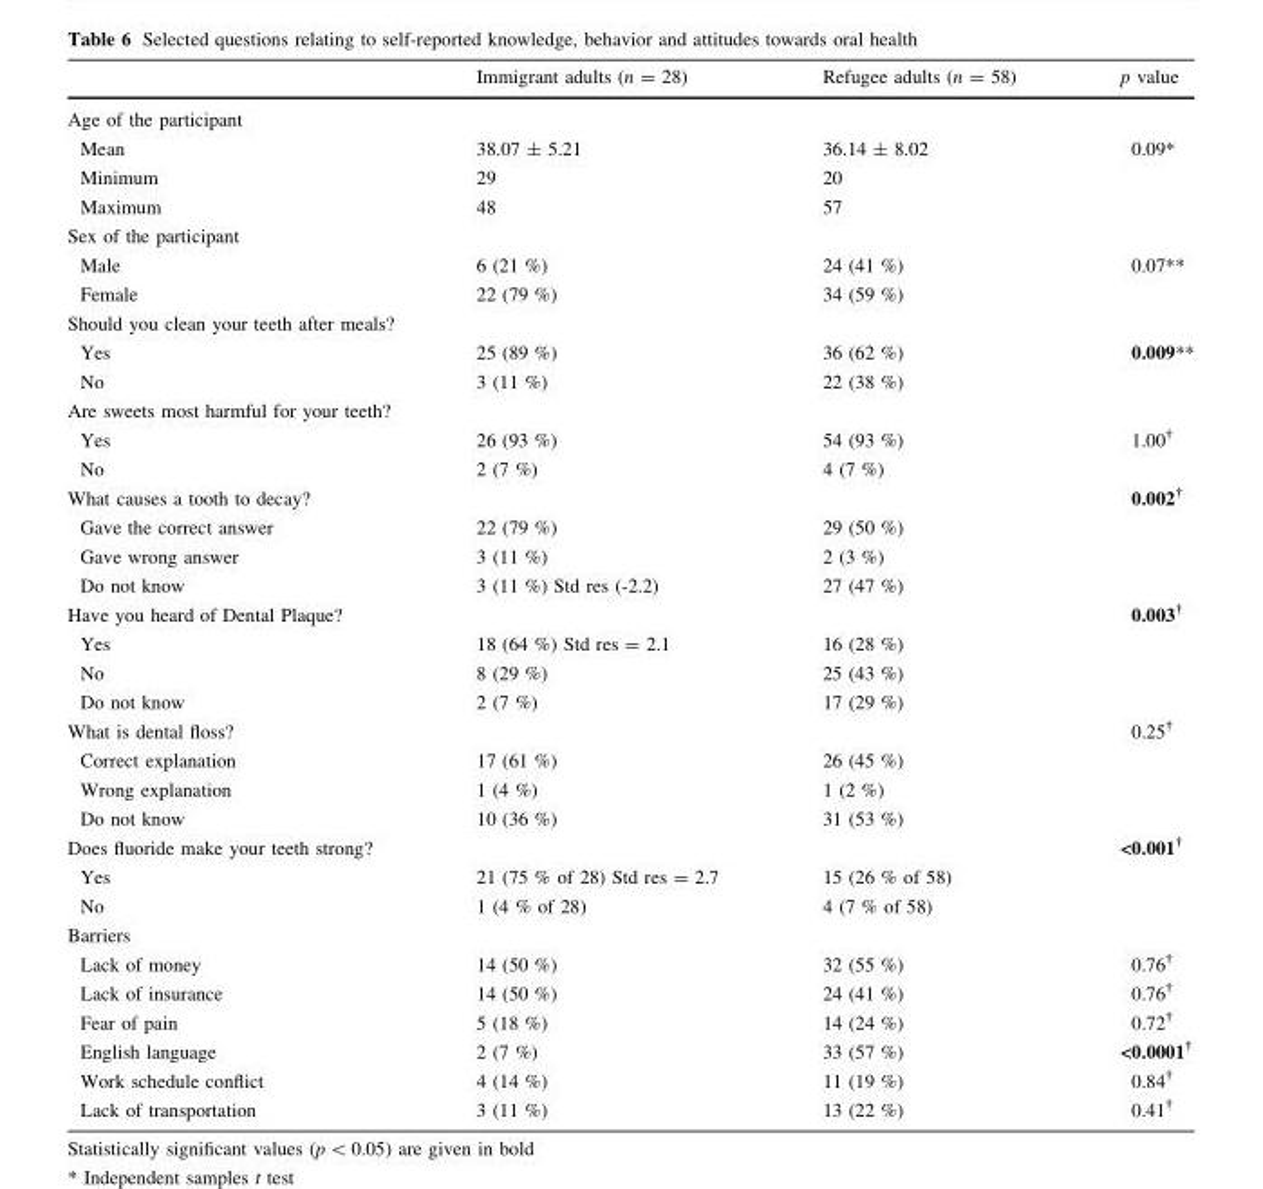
<table><thead><tr><td></td><td>Immigrant adults (n = 28)</td><td>Refugee adults (n = 58)</td><td>p value</td></tr></thead><tbody><tr><td colspan="4">Age of the participant</td></tr><tr><td>Mean</td><td>38.07 ± 5.21</td><td>36.14 ± 8.02</td><td>0.09*</td></tr><tr><td>Minimum</td><td>29</td><td>20</td><td></td></tr><tr><td>Maximum</td><td>48</td><td>57</td><td></td></tr><tr><td colspan="4">Sex of the participant</td></tr><tr><td>Male</td><td>6 (21 %)</td><td>24 (41 %)</td><td>0.07**</td></tr><tr><td>Female</td><td>22 (79 %)</td><td>34 (59 %)</td><td></td></tr><tr><td colspan="4">Should you clean your teeth after meals?</td></tr><tr><td>Yes</td><td>25 (89 %)</td><td>36 (62 %)</td><td>0.009**</td></tr><tr><td>No</td><td>3 (11 %)</td><td>22 (38 %)</td><td></td></tr><tr><td colspan="4">Are sweets most harmful for your teeth?</td></tr><tr><td>Yes</td><td>26 (93 %)</td><td>54 (93 %)</td><td>1.00<sup>†</sup></td></tr><tr><td>No</td><td>2 (7 %)</td><td>4 (7 %)</td><td></td></tr><tr><td>What causes a tooth to decay?</td><td></td><td></td><td>0.002<sup>†</sup></td></tr><tr><td>Gave the correct answer</td><td>22 (79 %)</td><td>29 (50 %)</td><td></td></tr><tr><td>Gave wrong answer</td><td>3 (11 %)</td><td>2 (3 %)</td><td></td></tr><tr><td>Do not know</td><td>3 (11 %) Std res (-2.2)</td><td>27 (47 %)</td><td></td></tr><tr><td>Have you heard of Dental Plaque?</td><td></td><td></td><td>0.003<sup>†</sup></td></tr><tr><td>Yes</td><td>18 (64 %) Std res = 2.1</td><td>16 (28 %)</td><td></td></tr><tr><td>No</td><td>8 (29 %)</td><td>25 (43 %)</td><td></td></tr><tr><td>Do not know</td><td>2 (7 %)</td><td>17 (29 %)</td><td></td></tr><tr><td>What is dental floss?</td><td></td><td></td><td>0.25<sup>†</sup></td></tr><tr><td>Correct explanation</td><td>17 (61 %)</td><td>26 (45 %)</td><td></td></tr><tr><td>Wrong explanation</td><td>1 (4 %)</td><td>1 (2 %)</td><td></td></tr><tr><td>Do not know</td><td>10 (36 %)</td><td>31 (53 %)</td><td></td></tr><tr><td>Does fluoride make your teeth strong?</td><td></td><td></td><td>&lt;0.001<sup>†</sup></td></tr><tr><td>Yes</td><td>21 (75 % of 28) Std res = 2.7</td><td>15 (26 % of 58)</td><td></td></tr><tr><td>No</td><td>1 (4 % of 28)</td><td>4 (7 % of 58)</td><td></td></tr><tr><td colspan="4">Barriers</td></tr><tr><td>Lack of money</td><td>14 (50 %)</td><td>32 (55 %)</td><td>0.76<sup>†</sup></td></tr><tr><td>Lack of insurance</td><td>14 (50 %)</td><td>24 (41 %)</td><td>0.76<sup>†</sup></td></tr><tr><td>Fear of pain</td><td>5 (18 %)</td><td>14 (24 %)</td><td>0.72<sup>†</sup></td></tr><tr><td>English language</td><td>2 (7 %)</td><td>33 (57 %)</td><td>&lt;0.0001<sup>†</sup></td></tr><tr><td>Work schedule conflict</td><td>4 (14 %)</td><td>11 (19 %)</td><td>0.84<sup>†</sup></td></tr><tr><td>Lack of transportation</td><td>3 (11 %)</td><td>13 (22 %)</td><td>0.41<sup>†</sup></td></tr></tbody></table>